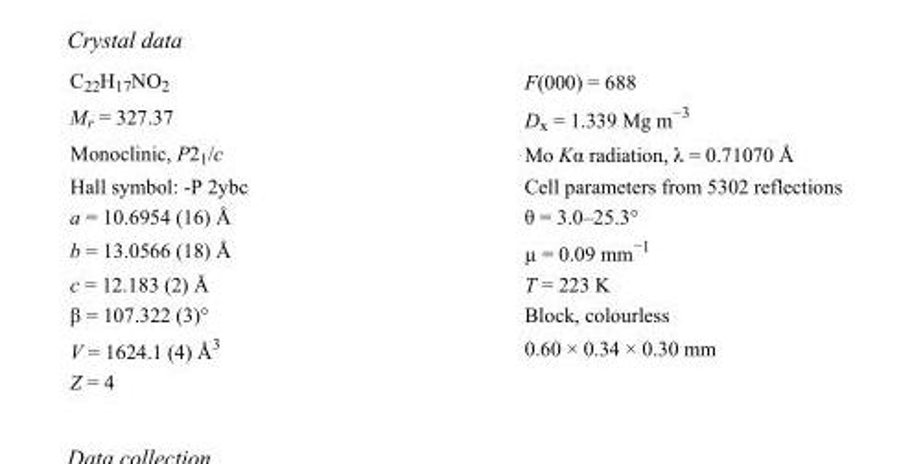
<table><tbody><tr><td>C<sub>22</sub>H<sub>17</sub>NO<sub>2</sub></td><td>F(000) = 688</td></tr><tr><td>M<sub>r</sub> = 327.37</td><td>D<sub>x</sub> = 1.339 Mg m<sup>−3</sup></td></tr><tr><td>Monoclinic, P2<sub>1</sub>/c</td><td>Mo Kα radiation, λ = 0.71070 Å</td></tr><tr><td>Hall symbol: -P 2ybc</td><td>Cell parameters from 5302 reflections</td></tr><tr><td>a = 10.6954 (16) Å</td><td>θ = 3.0–25.3°</td></tr><tr><td>b = 13.0566 (18) Å</td><td>µ = 0.09 mm<sup>−1</sup></td></tr><tr><td>c = 12.183 (2) Å</td><td>T = 223 K</td></tr><tr><td>β = 107.322 (3)°</td><td>Block, colourless</td></tr><tr><td>V = 1624.1 (4) Å<sup>3</sup></td><td>0.60 × 0.34 × 0.30 mm</td></tr><tr><td>Z = 4</td><td></td></tr></tbody></table>